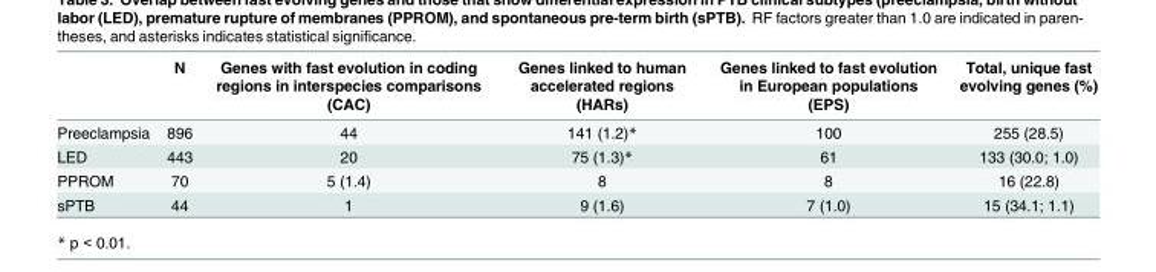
<table><thead><tr><td></td><td>N</td><td>Genes with fast evolution in coding regions in interspecies comparisons (CAC)</td><td>Genes linked to human accelerated regions (HARs)</td><td>Genes linked to fast evolution in European populations (EPS)</td><td>Total, unique fast evolving genes (%)</td></tr></thead><tbody><tr><td>Preeclampsia</td><td>896</td><td>44</td><td>141 (1.2)*</td><td>100</td><td>255 (28.5)</td></tr><tr><td>LED</td><td>443</td><td>20</td><td>75 (1.3)*</td><td>61</td><td>133 (30.0; 1.0)</td></tr><tr><td>PPROM</td><td>70</td><td>5 (1.4)</td><td>8</td><td>8</td><td>16 (22.8)</td></tr><tr><td>sPTB</td><td>44</td><td>1</td><td>9 (1.6)</td><td>7 (1.0)</td><td>15 (34.1; 1.1)</td></tr></tbody></table>